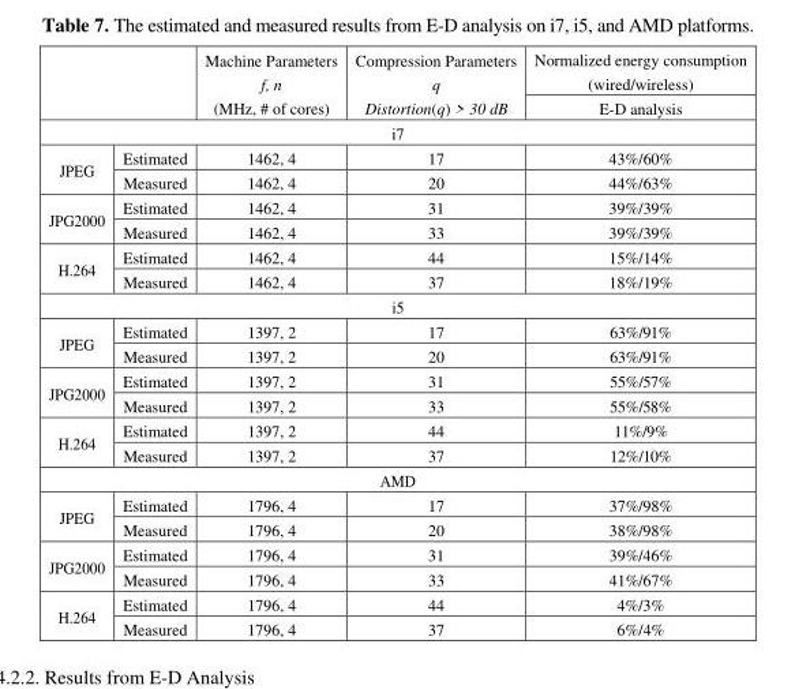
<table><thead><tr><td rowspan="2"></td><td rowspan="2"></td><td rowspan="2">Machine Parameters f, n (MHz, # of cores)</td><td rowspan="2">Compression Parameters q Distortion(q) &gt; 30 dB</td><td rowspan="2">Normalized energy consumption (wired/wireless) E-D analysis</td></tr><tr></tr></thead><tbody><tr><td colspan="5">i7</td></tr><tr><td rowspan="2">JPEG</td><td>Estimated</td><td>1462, 4</td><td>17</td><td>43%/60%</td></tr><tr><td>Measured</td><td>1462, 4</td><td>20</td><td>44%/63%</td></tr><tr><td rowspan="2">JPG2000</td><td>Estimated</td><td>1462, 4</td><td>31</td><td>39%/39%</td></tr><tr><td>Measured</td><td>1462, 4</td><td>33</td><td>39%/39%</td></tr><tr><td rowspan="2">H.264</td><td>Estimated</td><td>1462, 4</td><td>44</td><td>15%/14%</td></tr><tr><td>Measured</td><td>1462, 4</td><td>37</td><td>18%/19%</td></tr><tr><td colspan="5">i5</td></tr><tr><td rowspan="2">JPEG</td><td>Estimated</td><td>1397, 2</td><td>17</td><td>63%/91%</td></tr><tr><td>Measured</td><td>1397, 2</td><td>20</td><td>63%/91%</td></tr><tr><td rowspan="2">JPG2000</td><td>Estimated</td><td>1397, 2</td><td>31</td><td>55%/57%</td></tr><tr><td>Measured</td><td>1397, 2</td><td>33</td><td>55%/58%</td></tr><tr><td rowspan="2">H.264</td><td>Estimated</td><td>1397, 2</td><td>44</td><td>11%/9%</td></tr><tr><td>Measured</td><td>1397, 2</td><td>37</td><td>12%/10%</td></tr><tr><td colspan="5">AMD</td></tr><tr><td rowspan="2">JPEG</td><td>Estimated</td><td>1796, 4</td><td>17</td><td>37%/98%</td></tr><tr><td>Measured</td><td>1796, 4</td><td>20</td><td>38%/98%</td></tr><tr><td rowspan="2">JPG2000</td><td>Estimated</td><td>1796, 4</td><td>31</td><td>39%/46%</td></tr><tr><td>Measured</td><td>1796, 4</td><td>33</td><td>41%/67%</td></tr><tr><td rowspan="2">H.264</td><td>Estimated</td><td>1796, 4</td><td>44</td><td>4%/3%</td></tr><tr><td>Measured</td><td>1796, 4</td><td>37</td><td>6%/4%</td></tr></tbody></table>